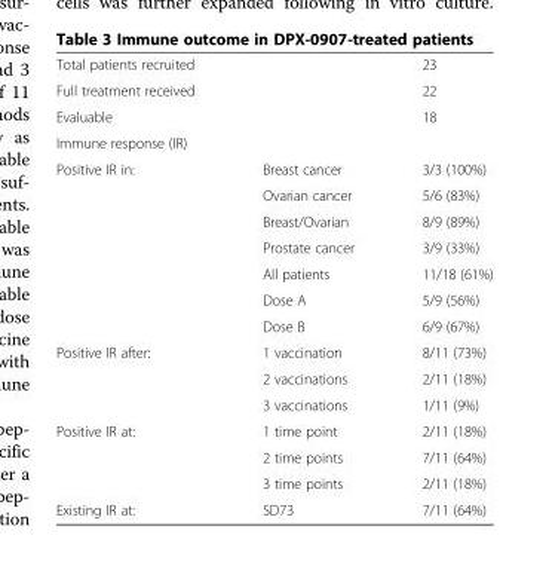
<table><tbody><tr><td>Total patients recruited</td><td></td><td>23</td></tr><tr><td>Full treatment received</td><td></td><td>22</td></tr><tr><td>Evaluable</td><td></td><td>18</td></tr><tr><td colspan="3">Immune response (IR)</td></tr><tr><td rowspan="7">Positive IR in:</td><td>Breast cancer</td><td>3/3 (100%)</td></tr><tr><td>Ovarian cancer</td><td>5/6 (83%)</td></tr><tr><td>Breast/Ovarian</td><td>8/9 (89%)</td></tr><tr><td>Prostate cancer</td><td>3/9 (33%)</td></tr><tr><td>All patients</td><td>11/18 (61%)</td></tr><tr><td>Dose A</td><td>5/9 (56%)</td></tr><tr><td>Dose B</td><td>6/9 (67%)</td></tr><tr><td rowspan="3">Positive IR after:</td><td>1 vaccination</td><td>8/11 (73%)</td></tr><tr><td>2 vaccinations</td><td>2/11 (18%)</td></tr><tr><td>3 vaccinations</td><td>1/11 (9%)</td></tr><tr><td rowspan="3">Positive IR at:</td><td>1 time point</td><td>2/11 (18%)</td></tr><tr><td>2 time points</td><td>7/11 (64%)</td></tr><tr><td>3 time points</td><td>2/11 (18%)</td></tr><tr><td>Existing IR at:</td><td>SD73</td><td>7/11 (64%)</td></tr></tbody></table>